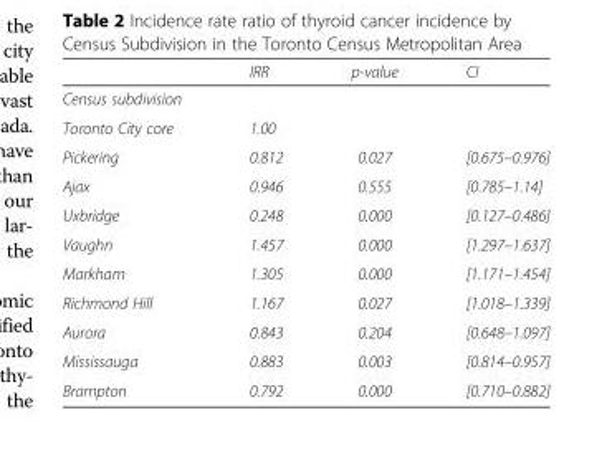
<table><thead><tr><td></td><td>IRR</td><td>p-value</td><td>CI</td></tr></thead><tbody><tr><td colspan="4">Census subdivision</td></tr><tr><td>Toronto City core</td><td>1.00</td><td></td><td></td></tr><tr><td>Pickering</td><td>0.812</td><td>0.027</td><td>[0.675–0.976]</td></tr><tr><td>Ajax</td><td>0.946</td><td>0.555</td><td>[0.785–1.14]</td></tr><tr><td>Uxbridge</td><td>0.248</td><td>0.000</td><td>[0.127–0.486]</td></tr><tr><td>Vaughn</td><td>1.457</td><td>0.000</td><td>[1.297–1.637]</td></tr><tr><td>Markham</td><td>1.305</td><td>0.000</td><td>[1.171–1.454]</td></tr><tr><td>Richmond Hill</td><td>1.167</td><td>0.027</td><td>[1.018–1.339]</td></tr><tr><td>Aurora</td><td>0.843</td><td>0.204</td><td>[0.648–1.097]</td></tr><tr><td>Mississauga</td><td>0.883</td><td>0.003</td><td>[0.814–0.957]</td></tr><tr><td>Brampton</td><td>0.792</td><td>0.000</td><td>[0.710–0.882]</td></tr></tbody></table>